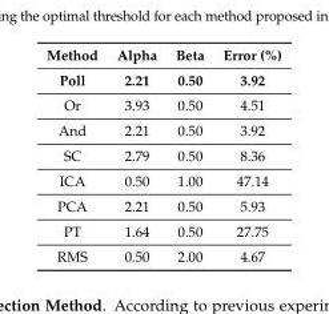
<table><thead><tr><td>Method</td><td>Alpha</td><td>Beta</td><td>Error (%)</td></tr></thead><tbody><tr><td>Poll</td><td>2.21</td><td>0.50</td><td>3.92</td></tr><tr><td>Or</td><td>3.93</td><td>0.50</td><td>4.51</td></tr><tr><td>And</td><td>2.21</td><td>0.50</td><td>3.92</td></tr><tr><td>SC</td><td>2.79</td><td>0.50</td><td>8.36</td></tr><tr><td>ICA</td><td>0.50</td><td>1.00</td><td>47.14</td></tr><tr><td>PCA</td><td>2.21</td><td>0.50</td><td>5.93</td></tr><tr><td>PT</td><td>1.64</td><td>0.50</td><td>27.75</td></tr><tr><td>RMS</td><td>0.50</td><td>2.00</td><td>4.67</td></tr></tbody></table>